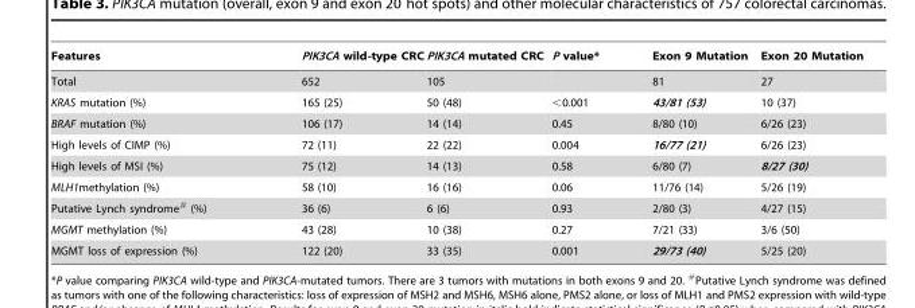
<table><thead><tr><td>Features</td><td>PIK3CA wild-type CRC</td><td>PIK3CA mutated CRC</td><td>P value*</td><td>Exon 9 Mutation</td><td>Exon 20 Mutation</td></tr></thead><tbody><tr><td>Total</td><td>652</td><td>105</td><td></td><td>81</td><td>27</td></tr><tr><td>KRAS mutation (%)</td><td>165 (25)</td><td>50 (48)</td><td>&lt;0.001</td><td>43/81 (53)</td><td>10 (37)</td></tr><tr><td>BRAF mutation (%)</td><td>106 (17)</td><td>14 (14)</td><td>0.45</td><td>8/80 (10)</td><td>6/26 (23)</td></tr><tr><td>High levels of CIMP (%)</td><td>72 (11)</td><td>22 (22)</td><td>0.004</td><td>16/77 (21)</td><td>6/26 (23)</td></tr><tr><td>High levels of MSI (%)</td><td>75 (12)</td><td>14 (13)</td><td>0.58</td><td>6/80 (7)</td><td>8/27 (30)</td></tr><tr><td>MLH1methylation (%)</td><td>58 (10)</td><td>16 (16)</td><td>0.06</td><td>11/76 (14)</td><td>5/26 (19)</td></tr><tr><td>Putative Lynch syndrome<sup>#</sup> (%)</td><td>36 (6)</td><td>6 (6)</td><td>0.93</td><td>2/80 (3)</td><td>4/27 (15)</td></tr><tr><td>MGMT methylation (%)</td><td>43 (28)</td><td>10 (38)</td><td>0.27</td><td>7/21 (33)</td><td>3/6 (50)</td></tr><tr><td>MGMT loss of expression (%)</td><td>122 (20)</td><td>33 (35)</td><td>0.001</td><td>29/73 (40)</td><td>5/25 (20)</td></tr></tbody></table>